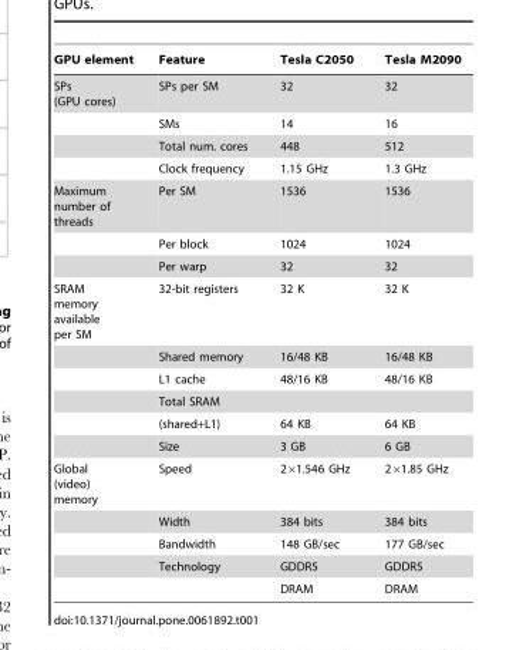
<table><thead><tr><td>GPU element</td><td>Feature</td><td>Tesla C2050</td><td>Tesla M2090</td></tr></thead><tbody><tr><td rowspan="4">SPs (GPU cores)</td><td>SPs per SM</td><td>32</td><td>32</td></tr><tr><td>SMs</td><td>14</td><td>16</td></tr><tr><td>Total num. cores</td><td>448</td><td>512</td></tr><tr><td>Clock frequency</td><td>1.15 GHz</td><td>1.3 GHz</td></tr><tr><td rowspan="3">Maximum number of threads</td><td>Per SM</td><td>1536</td><td>1536</td></tr><tr><td>Per block</td><td>1024</td><td>1024</td></tr><tr><td>Per warp</td><td>32</td><td>32</td></tr><tr><td rowspan="6">SRAM memory available per SM</td><td>32-bit registers</td><td>32 K</td><td>32 K</td></tr><tr><td>Shared memory</td><td>16/48 KB</td><td>16/48 KB</td></tr><tr><td>L1 cache</td><td>48/16 KB</td><td>48/16 KB</td></tr><tr><td>Total SRAM</td><td></td><td></td></tr><tr><td>(shared+L1)</td><td>64 KB</td><td>64 KB</td></tr><tr><td>Size</td><td>3 GB</td><td>6 GB</td></tr><tr><td rowspan="5">Global (video) memory</td><td>Speed</td><td>2×1.546 GHz</td><td>2×1.85 GHz</td></tr><tr><td>Width</td><td>384 bits</td><td>384 bits</td></tr><tr><td>Bandwidth</td><td>148 GB/sec</td><td>177 GB/sec</td></tr><tr><td>Technology</td><td>GDDR5</td><td>GDDR5</td></tr><tr><td></td><td>DRAM</td><td>DRAM</td></tr></tbody></table>